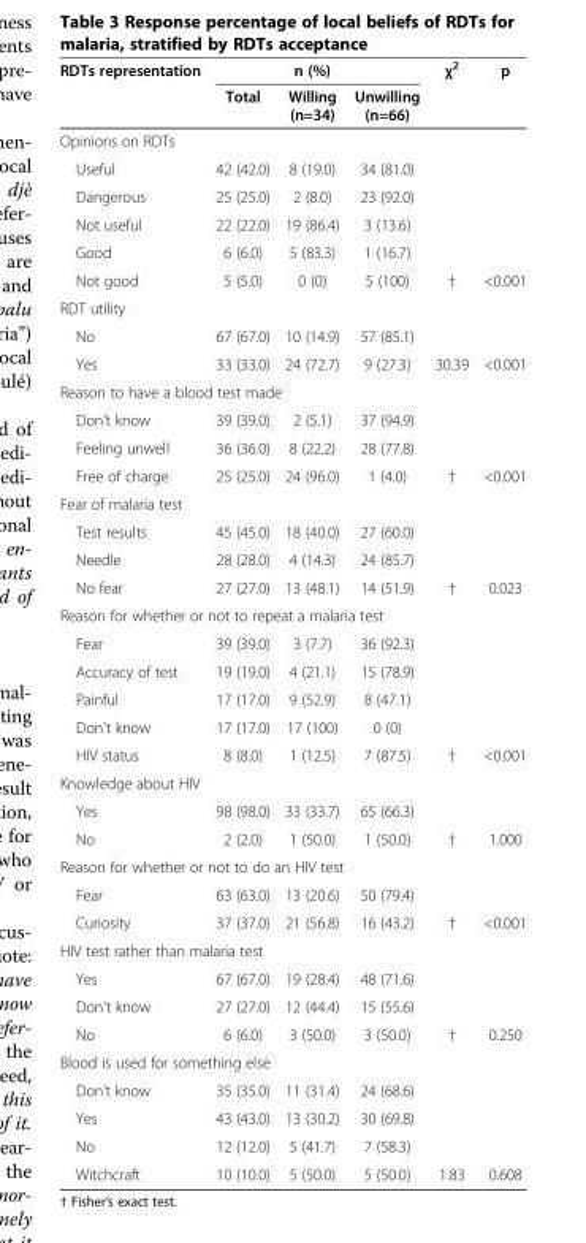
<table><thead><tr><td rowspan="2">RDTs representation</td><td colspan="3">n (%)</td><td rowspan="2">χ<sup>2</sup></td><td rowspan="2">p</td></tr><tr><td>Total</td><td>Willing (n=34)</td><td>Unwilling (n=66)</td></tr></thead><tbody><tr><td colspan="6">Opinions on RDTs</td></tr><tr><td>Useful</td><td>42 (42.0)</td><td>8 (19.0)</td><td>34 (81.0)</td><td></td><td></td></tr><tr><td>Dangerous</td><td>25 (25.0)</td><td>2 (8.0)</td><td>23 (92.0)</td><td></td><td></td></tr><tr><td>Not useful</td><td>22 (22.0)</td><td>19 (86.4)</td><td>3 (13.6)</td><td></td><td></td></tr><tr><td>Good</td><td>6 (6.0)</td><td>5 (83.3)</td><td>1 (16.7)</td><td></td><td></td></tr><tr><td>Not good</td><td>5 (5.0)</td><td>0 (0)</td><td>5 (100)</td><td>†</td><td>&lt;0.001</td></tr><tr><td colspan="6">RDT utility</td></tr><tr><td>No</td><td>67 (67.0)</td><td>10 (14.9)</td><td>57 (85.1)</td><td></td><td></td></tr><tr><td>Yes</td><td>33 (33.0)</td><td>24 (72.7)</td><td>9 (27.3)</td><td>30.39</td><td>&lt;0.001</td></tr><tr><td colspan="6">Reason to have a blood test made</td></tr><tr><td>Don’t know</td><td>39 (39.0)</td><td>2 (5.1)</td><td>37 (94.9)</td><td></td><td></td></tr><tr><td>Feeling unwell</td><td>36 (36.0)</td><td>8 (22.2)</td><td>28 (77.8)</td><td></td><td></td></tr><tr><td>Free of charge</td><td>25 (25.0)</td><td>24 (96.0)</td><td>1 (4.0)</td><td>†</td><td>&lt;0.001</td></tr><tr><td colspan="6">Fear of malaria test</td></tr><tr><td>Test results</td><td>45 (45.0)</td><td>18 (40.0)</td><td>27 (60.0)</td><td></td><td></td></tr><tr><td>Needle</td><td>28 (28.0)</td><td>4 (14.3)</td><td>24 (85.7)</td><td></td><td></td></tr><tr><td>No fear</td><td>27 (27.0)</td><td>13 (48.1)</td><td>14 (51.9)</td><td>†</td><td>0.023</td></tr><tr><td colspan="6">Reason for whether or not to repeat a malaria test</td></tr><tr><td>Fear</td><td>39 (39.0)</td><td>3 (7.7)</td><td>36 (92.3)</td><td></td><td></td></tr><tr><td>Accuracy of test</td><td>19 (19.0)</td><td>4 (21.1)</td><td>15 (78.9)</td><td></td><td></td></tr><tr><td>Painful</td><td>17 (17.0)</td><td>9 (52.9)</td><td>8 (47.1)</td><td></td><td></td></tr><tr><td>Don&#x27;t know</td><td>17 (17.0)</td><td>17 (100)</td><td>0 (0)</td><td></td><td></td></tr><tr><td>HIV status</td><td>8 (8.0)</td><td>1 (12.5)</td><td>7 (87.5)</td><td>†</td><td>&lt;0.001</td></tr><tr><td colspan="6">Knowledge about HIV</td></tr><tr><td>Yes</td><td>98 (98.0)</td><td>33 (33.7)</td><td>65 (66.3)</td><td></td><td></td></tr><tr><td>No</td><td>2 (2.0)</td><td>1 (50.0)</td><td>1 (50.0)</td><td>†</td><td>1.000</td></tr><tr><td colspan="6">Reason for whether or not to do an HIV test</td></tr><tr><td>Fear</td><td>63 (63.0)</td><td>13 (20.6)</td><td>50 (79.4)</td><td></td><td></td></tr><tr><td>Curiosity</td><td>37 (37.0)</td><td>21 (56.8)</td><td>16 (43.2)</td><td>†</td><td>&lt;0.001</td></tr><tr><td colspan="6">HIV test rather than malaria test</td></tr><tr><td>Yes</td><td>67 (67.0)</td><td>19 (28.4)</td><td>48 (71.6)</td><td></td><td></td></tr><tr><td>Don&#x27;t know</td><td>27 (27.0)</td><td>12 (44.4)</td><td>15 (55.6)</td><td></td><td></td></tr><tr><td>No</td><td>6 (6.0)</td><td>3 (50.0)</td><td>3 (50.0)</td><td>†</td><td>0.250</td></tr><tr><td colspan="6">Blood is used for something else</td></tr><tr><td>Don’t know</td><td>35 (35.0)</td><td>11 (31.4)</td><td>24 (68.6)</td><td></td><td></td></tr><tr><td>Yes</td><td>43 (43.0)</td><td>13 (30.2)</td><td>30 (69.8)</td><td></td><td></td></tr><tr><td>No</td><td>12 (12.0)</td><td>5 (41.7)</td><td>7 (58.3)</td><td></td><td></td></tr><tr><td>Witchcraft</td><td>10 (10.0)</td><td>5 (50.0)</td><td>5 (50.0)</td><td>1.83</td><td>0.608</td></tr></tbody></table>